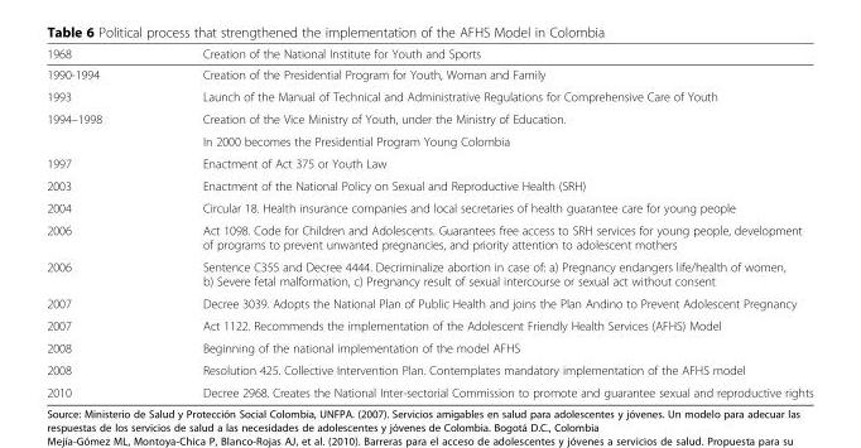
<table><thead><tr><td>1968</td><td>Creation of the National Institute for Youth and Sports</td></tr></thead><tbody><tr><td>1990-1994</td><td>Creation of the Presidential Program for Youth, Woman and Family</td></tr><tr><td>1993</td><td>Launch of the Manual of Technical and Administrative Regulations for Comprehensive Care of Youth</td></tr><tr><td rowspan="2">1994–1998</td><td>Creation of the Vice Ministry of Youth, under the Ministry of Education.</td></tr><tr><td>In 2000 becomes the Presidential Program Young Colombia</td></tr><tr><td>1997</td><td>Enactment of Act 375 or Youth Law</td></tr><tr><td>2003</td><td>Enactment of the National Policy on Sexual and Reproductive Health (SRH)</td></tr><tr><td>2004</td><td>Circular 18. Health insurance companies and local secretaries of health guarantee care for young people</td></tr><tr><td>2006</td><td>Act 1098. Code for Children and Adolescents. Guarantees free access to SRH services for young people, development of programs to prevent unwanted pregnancies, and priority attention to adolescent mothers</td></tr><tr><td>2006</td><td>Sentence C355 and Decree 4444. Decriminalize abortion in case of: a) Pregnancy endangers life/health of women, b) Severe fetal malformation, c) Pregnancy result of sexual intercourse or sexual act without consent</td></tr><tr><td>2007</td><td>Decree 3039. Adopts the National Plan of Public Health and joins the Plan Andino to Prevent Adolescent Pregnancy</td></tr><tr><td>2007</td><td>Act 1122. Recommends the implementation of the Adolescent Friendly Health Services (AFHS) Model</td></tr><tr><td>2008</td><td>Beginning of the national implementation of the model AFHS</td></tr><tr><td>2008</td><td>Resolution 425. Collective Intervention Plan. Contemplates mandatory implementation of the AFHS model</td></tr><tr><td>2010</td><td>Decree 2968. Creates the National Inter-sectorial Commission to promote and guarantee sexual and reproductive rights</td></tr></tbody></table>